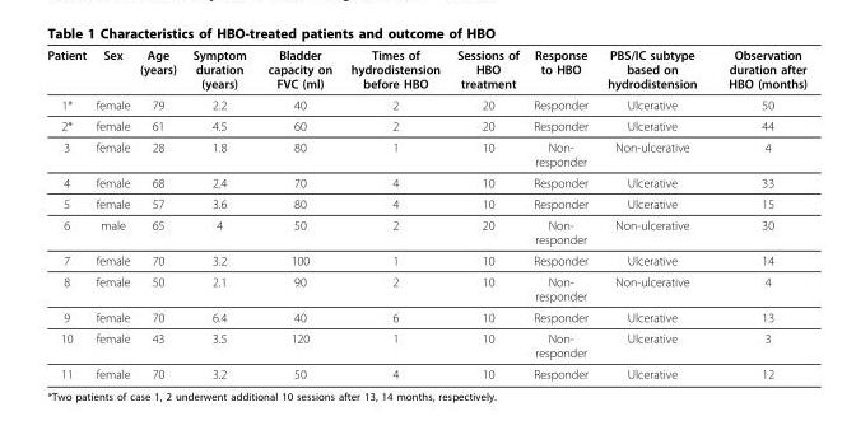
<table><thead><tr><td>Patient</td><td>Sex</td><td>Age (years)</td><td>Symptom duration (years)</td><td>Bladder capacity on FVC (ml)</td><td>Times of hydrodistension before HBO</td><td>Sessions of HBO treatment</td><td>Response to HBO</td><td>PBS/IC subtype based on hydrodistension</td><td>Observation duration after HBO (months)</td></tr></thead><tbody><tr><td>1*</td><td>female</td><td>79</td><td>2.2</td><td>40</td><td>2</td><td>20</td><td>Responder</td><td>Ulcerative</td><td>50</td></tr><tr><td>2*</td><td>female</td><td>61</td><td>4.5</td><td>60</td><td>2</td><td>20</td><td>Responder</td><td>Ulcerative</td><td>44</td></tr><tr><td>3</td><td>female</td><td>28</td><td>1.8</td><td>80</td><td>1</td><td>10</td><td>Non- responder</td><td>Non-ulcerative</td><td>4</td></tr><tr><td>4</td><td>female</td><td>68</td><td>2.4</td><td>70</td><td>4</td><td>10</td><td>Responder</td><td>Ulcerative</td><td>33</td></tr><tr><td>5</td><td>female</td><td>57</td><td>3.6</td><td>80</td><td>4</td><td>10</td><td>Responder</td><td>Ulcerative</td><td>15</td></tr><tr><td>6</td><td>male</td><td>65</td><td>4</td><td>50</td><td>2</td><td>20</td><td>Non- responder</td><td>Non-ulcerative</td><td>30</td></tr><tr><td>7</td><td>female</td><td>70</td><td>3.2</td><td>100</td><td>1</td><td>10</td><td>Responder</td><td>Ulcerative</td><td>14</td></tr><tr><td>8</td><td>female</td><td>50</td><td>2.1</td><td>90</td><td>2</td><td>10</td><td>Non- responder</td><td>Non-ulcerative</td><td>4</td></tr><tr><td>9</td><td>female</td><td>70</td><td>6.4</td><td>40</td><td>6</td><td>10</td><td>Responder</td><td>Ulcerative</td><td>13</td></tr><tr><td>10</td><td>female</td><td>43</td><td>3.5</td><td>120</td><td>1</td><td>10</td><td>Non- responder</td><td>Ulcerative</td><td>3</td></tr><tr><td>11</td><td>female</td><td>70</td><td>3.2</td><td>50</td><td>4</td><td>10</td><td>Responder</td><td>Ulcerative</td><td>12</td></tr></tbody></table>